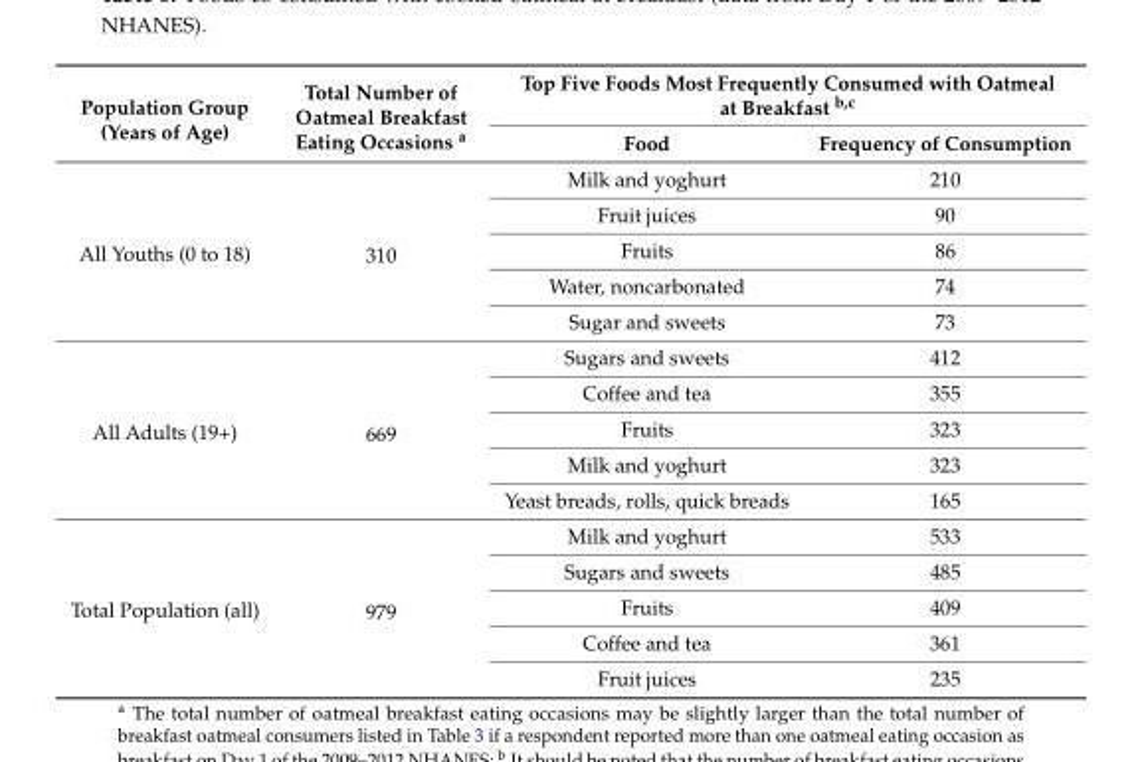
<table><thead><tr><td rowspan="2">Population Group (Years of Age)</td><td rowspan="2">Total Number of Oatmeal Breakfast Eating Occasions <sup>a</sup></td><td colspan="2">Top Five Foods Most Frequently Consumed with Oatmeal at Breakfast <sup>b,c</sup></td></tr><tr><td>Food</td><td>Frequency of Consumption</td></tr></thead><tbody><tr><td rowspan="5">All Youths (0 to 18)</td><td rowspan="5">310</td><td>Milk and yoghurt</td><td>210</td></tr><tr><td>Fruit juices</td><td>90</td></tr><tr><td>Fruits</td><td>86</td></tr><tr><td>Water, noncarbonated</td><td>74</td></tr><tr><td>Sugar and sweets</td><td>73</td></tr><tr><td rowspan="5">All Adults (19+)</td><td rowspan="5">669</td><td>Sugars and sweets</td><td>412</td></tr><tr><td>Coffee and tea</td><td>355</td></tr><tr><td>Fruits</td><td>323</td></tr><tr><td>Milk and yoghurt</td><td>323</td></tr><tr><td>Yeast breads, rolls, quick breads</td><td>165</td></tr><tr><td rowspan="5">Total Population (all)</td><td rowspan="5">979</td><td>Milk and yoghurt</td><td>533</td></tr><tr><td>Sugars and sweets</td><td>485</td></tr><tr><td>Fruits</td><td>409</td></tr><tr><td>Coffee and tea</td><td>361</td></tr><tr><td>Fruit juices</td><td>235</td></tr></tbody></table>